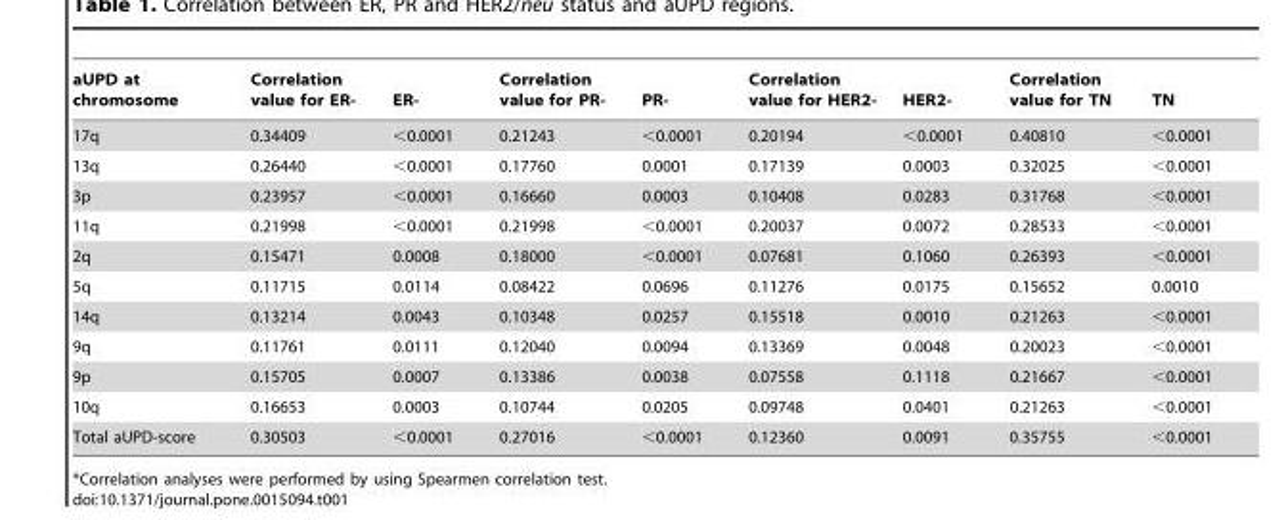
<table><thead><tr><td>aUPD at chromosome</td><td>Correlation value for ER-</td><td>ER-</td><td>Correlation value for PR-</td><td>PR-</td><td>Correlation value for HER2-</td><td>HER2-</td><td>Correlation value for TN</td><td>TN</td></tr></thead><tbody><tr><td>17q</td><td>0.34409</td><td>&lt;0.0001</td><td>0.21243</td><td>&lt;0.0001</td><td>0.20194</td><td>&lt;0.0001</td><td>0.40810</td><td>&lt;0.0001</td></tr><tr><td>13q</td><td>0.26440</td><td>&lt;0.0001</td><td>0.17760</td><td>0.0001</td><td>0.17139</td><td>0.0003</td><td>0.32025</td><td>&lt;0.0001</td></tr><tr><td>3p</td><td>0.23957</td><td>&lt;0.0001</td><td>0.16660</td><td>0.0003</td><td>0.10408</td><td>0.0283</td><td>0.31768</td><td>&lt;0.0001</td></tr><tr><td>11q</td><td>0.21998</td><td>&lt;0.0001</td><td>0.21998</td><td>&lt;0.0001</td><td>0.20037</td><td>0.0072</td><td>0.28533</td><td>&lt;0.0001</td></tr><tr><td>2q</td><td>0.15471</td><td>0.0008</td><td>0.18000</td><td>&lt;0.0001</td><td>0.07681</td><td>0.1060</td><td>0.26393</td><td>&lt;0.0001</td></tr><tr><td>5q</td><td>0.11715</td><td>0.0114</td><td>0.08422</td><td>0.0696</td><td>0.11276</td><td>0.0175</td><td>0.15652</td><td>0.0010</td></tr><tr><td>14q</td><td>0.13214</td><td>0.0043</td><td>0.10348</td><td>0.0257</td><td>0.15518</td><td>0.0010</td><td>0.21263</td><td>&lt;0.0001</td></tr><tr><td>9q</td><td>0.11761</td><td>0.0111</td><td>0.12040</td><td>0.0094</td><td>0.13369</td><td>0.0048</td><td>0.20023</td><td>&lt;0.0001</td></tr><tr><td>9p</td><td>0.15705</td><td>0.0007</td><td>0.13386</td><td>0.0038</td><td>0.07558</td><td>0.1118</td><td>0.21667</td><td>&lt;0.0001</td></tr><tr><td>10q</td><td>0.16653</td><td>0.0003</td><td>0.10744</td><td>0.0205</td><td>0.09748</td><td>0.0401</td><td>0.21263</td><td>&lt;0.0001</td></tr><tr><td>Total aUPD-score</td><td>0.30503</td><td>&lt;0.0001</td><td>0.27016</td><td>&lt;0.0001</td><td>0.12360</td><td>0.0091</td><td>0.35755</td><td>&lt;0.0001</td></tr></tbody></table>